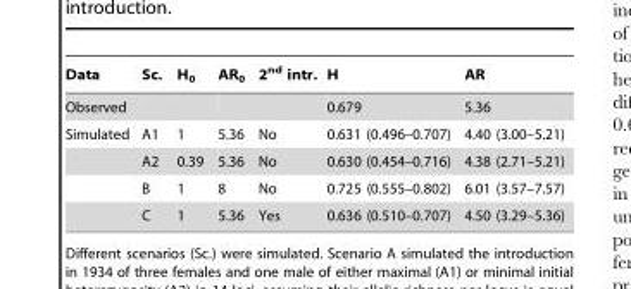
<table><thead><tr><td>Data</td><td>Sc.</td><td>H<sub>0</sub></td><td>AR<sub>0</sub></td><td>2<sup>nd</sup> intr.</td><td>H</td><td>AR</td></tr></thead><tbody><tr><td>Observed</td><td></td><td></td><td></td><td></td><td>0.679</td><td>5.36</td></tr><tr><td rowspan="4">Simulated</td><td>A1</td><td>1</td><td>5.36</td><td>No</td><td>0.631 (0.496–0.707)</td><td>4.40 (3.00–5.21)</td></tr><tr><td>A2</td><td>0.39</td><td>5.36</td><td>No</td><td>0.630 (0.454–0.716)</td><td>4.38 (2.71–5.21)</td></tr><tr><td>B</td><td>1</td><td>8</td><td>No</td><td>0.725 (0.555–0.802)</td><td>6.01 (3.57–7.57)</td></tr><tr><td>C</td><td>1</td><td>5.36</td><td>Yes</td><td>0.636 (0.510–0.707)</td><td>4.50 (3.29–5.36)</td></tr></tbody></table>